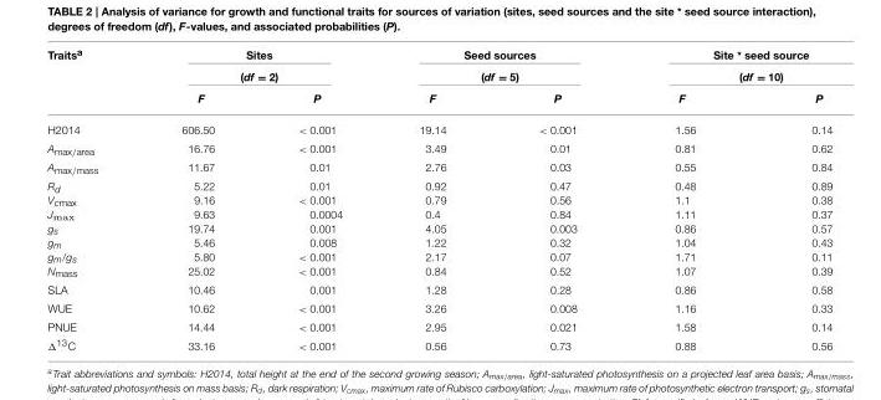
<table><thead><tr><td rowspan="3">Traits<sup>a</sup></td><td rowspan="2" colspan="2">Sites (df = 2)</td><td rowspan="2" colspan="2">Seed sources (df = 5)</td><td rowspan="2" colspan="2">Site * seed source (df = 10)</td></tr><tr></tr><tr><td>F</td><td>P</td><td>F</td><td>P</td><td>F</td><td>P</td></tr></thead><tbody><tr><td>H2014</td><td>606.50</td><td>&lt; 0.001</td><td>19.14</td><td>&lt; 0.001</td><td>1.56</td><td>0.14</td></tr><tr><td>Amax/area</td><td>16.76</td><td>&lt; 0.001</td><td>3.49</td><td>0.01</td><td>0.81</td><td>0.62</td></tr><tr><td>Amax/mass</td><td>11.67</td><td>0.01</td><td>2.76</td><td>0.03</td><td>0.55</td><td>0.84</td></tr><tr><td>R<sub>d</sub></td><td>5.22</td><td>0.01</td><td>0.92</td><td>0.47</td><td>0.48</td><td>0.89</td></tr><tr><td>V<sub>cmax</sub></td><td>9.16</td><td>&lt; 0.001</td><td>0.79</td><td>0.56</td><td>1.1</td><td>0.38</td></tr><tr><td>J<sub>max</sub></td><td>9.63</td><td>0.0004</td><td>0.4</td><td>0.84</td><td>1.11</td><td>0.37</td></tr><tr><td>g<sub>s</sub></td><td>19.74</td><td>0.001</td><td>4.05</td><td>0.003</td><td>0.86</td><td>0.57</td></tr><tr><td>g<sub>m</sub></td><td>5.46</td><td>0.008</td><td>1.22</td><td>0.32</td><td>1.04</td><td>0.43</td></tr><tr><td>g<sub>m</sub>/g<sub>s</sub></td><td>5.80</td><td>&lt; 0.001</td><td>2.17</td><td>0.07</td><td>1.71</td><td>0.11</td></tr><tr><td>N<sub>mass</sub></td><td>25.02</td><td>&lt; 0.001</td><td>0.84</td><td>0.52</td><td>1.07</td><td>0.39</td></tr><tr><td>SLA</td><td>10.46</td><td>0.001</td><td>1.28</td><td>0.28</td><td>0.86</td><td>0.58</td></tr><tr><td>WUE</td><td>10.62</td><td>&lt; 0.001</td><td>3.26</td><td>0.008</td><td>1.16</td><td>0.33</td></tr><tr><td>PNUE</td><td>14.44</td><td>&lt; 0.001</td><td>2.95</td><td>0.021</td><td>1.58</td><td>0.14</td></tr><tr><td>Δ<sup>13</sup>C</td><td>33.16</td><td>&lt; 0.001</td><td>0.56</td><td>0.73</td><td>0.88</td><td>0.56</td></tr></tbody></table>